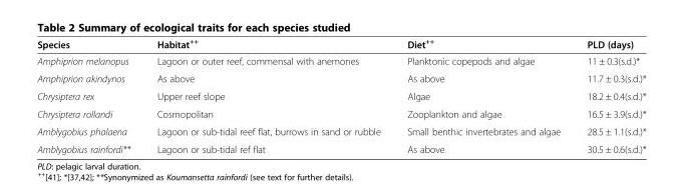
<table><thead><tr><td>Species</td><td>Habitat<sup>++</sup></td><td>Diet<sup>++</sup></td><td>PLD (days)</td></tr></thead><tbody><tr><td>Amphiprion melanopus</td><td>Lagoon or outer reef, commensal with anemones</td><td>Planktonic copepods and algae</td><td>11 ± 0.3(s.d.)*</td></tr><tr><td>Amphiprion akindynos</td><td>As above</td><td>As above</td><td>11.7 ± 0.3(s.d.)*</td></tr><tr><td>Chrysiptera rex</td><td>Upper reef slope</td><td>Algae</td><td>18.2 ± 0.4(s.d.)*</td></tr><tr><td>Chrysiptera rollandi</td><td>Cosmopolitan</td><td>Zooplankton and algae</td><td>16.5 ± 3.9(s.d.)*</td></tr><tr><td>Amblygobius phalaena</td><td>Lagoon or sub-tidal reef flat, burrows in sand or rubble</td><td>Small benthic invertebrates and algae</td><td>28.5 ± 1.1(s.d.)*</td></tr><tr><td>Amblygobius rainfordi**</td><td>Lagoon or sub-tidal ref flat</td><td>As above</td><td>30.5 ± 0.6(s.d.)*</td></tr></tbody></table>